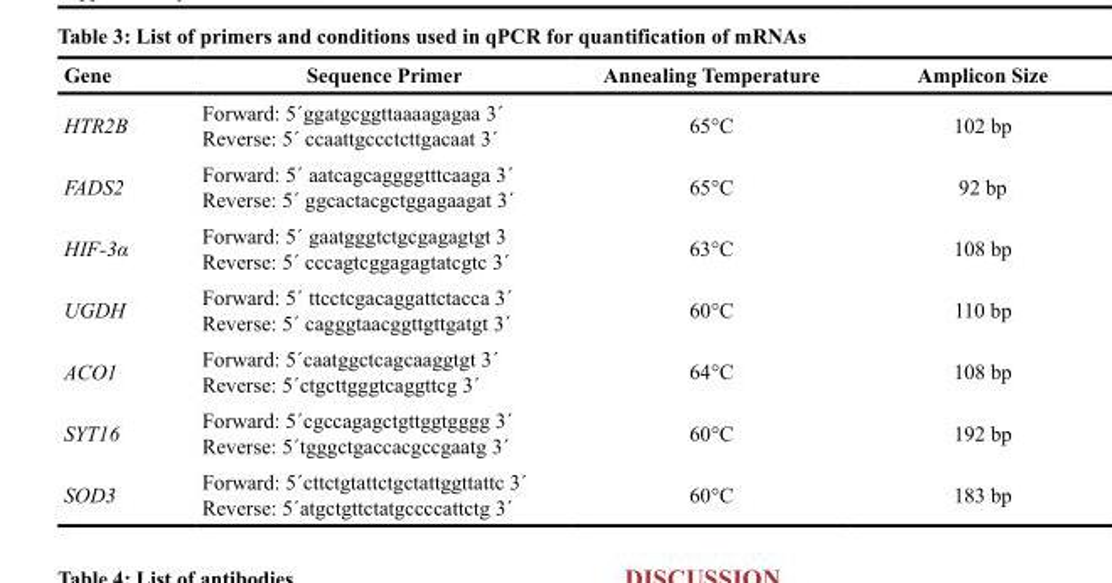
<table><thead><tr><td>Gene</td><td>Sequence Primer</td><td>Annealing Temperature</td><td>Amplicon Size</td></tr></thead><tbody><tr><td>HTR2B</td><td>Forward: 5´ggatgcggttaaaagagaa 3´ Reverse: 5´ ccaattgccctcttgacaat 3´</td><td>65°C</td><td>102 bp</td></tr><tr><td>FADS2</td><td>Forward: 5´ aatcagcaggggtttcaaga 3´ Reverse: 5´ ggcactacgctggagaagat 3´</td><td>65°C</td><td>92 bp</td></tr><tr><td>HIF-3α</td><td>Forward: 5´ gaatgggtctgcgagagtgt 3 Reverse: 5´ cccagtcggagagtatcgtc 3´</td><td>63°C</td><td>108 bp</td></tr><tr><td>UGDH</td><td>Forward: 5´ ttcctcgacaggattctacca 3´ Reverse: 5´ cagggtaacggttgttgatgt 3´</td><td>60°C</td><td>110 bp</td></tr><tr><td>ACO1</td><td>Forward: 5´caatggctcagcaaggtgt 3´ Reverse: 5´ctgcttgggtcaggttcg 3´</td><td>64°C</td><td>108 bp</td></tr><tr><td>SYT16</td><td>Forward: 5´cgccagagctgttggtgggg 3´ Reverse: 5´tgggctgaccacgccgaatg 3´</td><td>60°C</td><td>192 bp</td></tr><tr><td>SOD3</td><td>Forward: 5´cttctgtattctgctattggttattc 3´ Reverse: 5´atgctgttctatgccccattctg 3´</td><td>60°C</td><td>183 bp</td></tr></tbody></table>